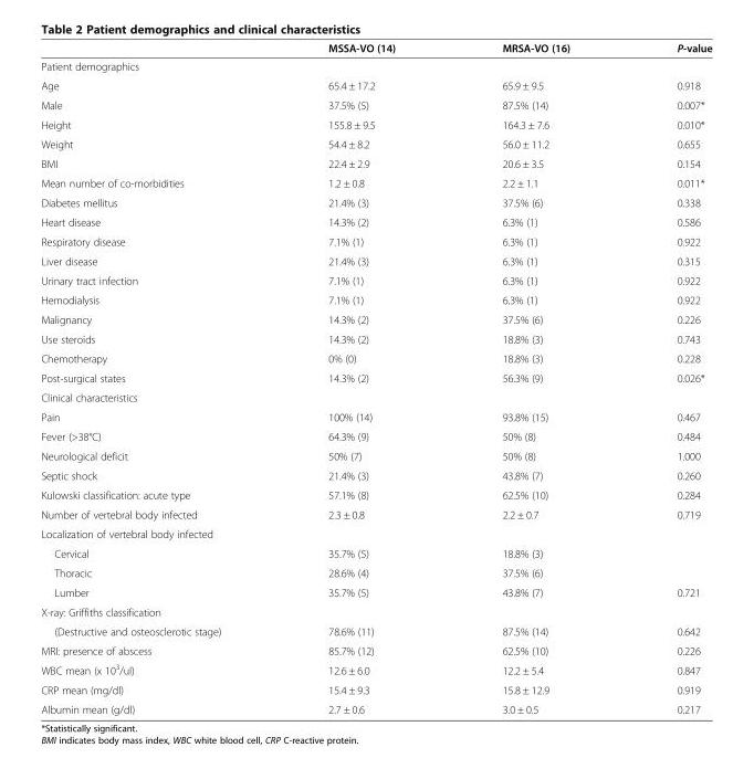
<table><thead><tr><td></td><td>MSSA-VO (14)</td><td>MRSA-VO (16)</td><td>P-value</td></tr></thead><tbody><tr><td colspan="4">Patient demographics</td></tr><tr><td>Age</td><td>65.4 ± 17.2</td><td>65.9 ± 9.5</td><td>0.918</td></tr><tr><td>Male</td><td>37.5% (5)</td><td>87.5% (14)</td><td>0.007*</td></tr><tr><td>Height</td><td>155.8 ± 9.5</td><td>164.3 ± 7.6</td><td>0.010*</td></tr><tr><td>Weight</td><td>54.4 ± 8.2</td><td>56.0 ± 11.2</td><td>0.655</td></tr><tr><td>BMI</td><td>22.4 ± 2.9</td><td>20.6 ± 3.5</td><td>0.154</td></tr><tr><td>Mean number of co-morbidities</td><td>1.2 ± 0.8</td><td>2.2 ± 1.1</td><td>0.011*</td></tr><tr><td>Diabetes mellitus</td><td>21.4% (3)</td><td>37.5% (6)</td><td>0.338</td></tr><tr><td>Heart disease</td><td>14.3% (2)</td><td>6.3% (1)</td><td>0.586</td></tr><tr><td>Respiratory disease</td><td>7.1% (1)</td><td>6.3% (1)</td><td>0.922</td></tr><tr><td>Liver disease</td><td>21.4% (3)</td><td>6.3% (1)</td><td>0.315</td></tr><tr><td>Urinary tract infection</td><td>7.1% (1)</td><td>6.3% (1)</td><td>0.922</td></tr><tr><td>Hemodialysis</td><td>7.1% (1)</td><td>6.3% (1)</td><td>0.922</td></tr><tr><td>Malignancy</td><td>14.3% (2)</td><td>37.5% (6)</td><td>0.226</td></tr><tr><td>Use steroids</td><td>14.3% (2)</td><td>18.8% (3)</td><td>0.743</td></tr><tr><td>Chemotherapy</td><td>0% (0)</td><td>18.8% (3)</td><td>0.228</td></tr><tr><td>Post-surgical states</td><td>14.3% (2)</td><td>56.3% (9)</td><td>0.026*</td></tr><tr><td colspan="4">Clinical characteristics</td></tr><tr><td>Pain</td><td>100% (14)</td><td>93.8% (15)</td><td>0.467</td></tr><tr><td>Fever (&gt;38°C)</td><td>64.3% (9)</td><td>50% (8)</td><td>0.484</td></tr><tr><td>Neurological deficit</td><td>50% (7)</td><td>50% (8)</td><td>1.000</td></tr><tr><td>Septic shock</td><td>21.4% (3)</td><td>43.8% (7)</td><td>0.260</td></tr><tr><td>Kulowski classification: acute type</td><td>57.1% (8)</td><td>62.5% (10)</td><td>0.284</td></tr><tr><td>Number of vertebral body infected</td><td>2.3 ± 0.8</td><td>2.2 ± 0.7</td><td>0.719</td></tr><tr><td colspan="4">Localization of vertebral body infected</td></tr><tr><td>Cervical</td><td>35.7% (5)</td><td>18.8% (3)</td><td></td></tr><tr><td>Thoracic</td><td>28.6% (4)</td><td>37.5% (6)</td><td></td></tr><tr><td>Lumber</td><td>35.7% (5)</td><td>43.8% (7)</td><td>0.721</td></tr><tr><td colspan="4">X-ray: Griffiths classification</td></tr><tr><td>(Destructive and osteosclerotic stage)</td><td>78.6% (11)</td><td>87.5% (14)</td><td>0.642</td></tr><tr><td>MRI: presence of abscess</td><td>85.7% (12)</td><td>62.5% (10)</td><td>0.226</td></tr><tr><td>WBC mean (x 10<sup>3</sup>/ul)</td><td>12.6 ± 6.0</td><td>12.2 ± 5.4</td><td>0.847</td></tr><tr><td>CRP mean (mg/dl)</td><td>15.4 ± 9.3</td><td>15.8 ± 12.9</td><td>0.919</td></tr><tr><td>Albumin mean (g/dl)</td><td>2.7 ± 0.6</td><td>3.0 ± 0.5</td><td>0.217</td></tr></tbody></table>